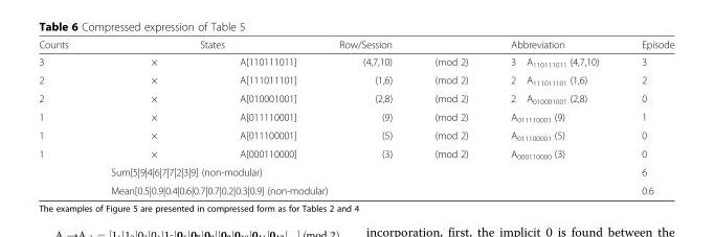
<table><thead><tr><td>Counts</td><td></td><td>States</td><td>Row/Session</td><td></td><td>Abbreviation</td><td>Episode</td></tr></thead><tbody><tr><td>3</td><td>×</td><td>A[110111011]</td><td>(4,7,10)</td><td>(mod 2)</td><td>3 A110111011 (4,7,10)</td><td>3</td></tr><tr><td>2</td><td>×</td><td>A[111011101]</td><td>(1,6)</td><td>(mod 2)</td><td>2 A111011101 (1,6)</td><td>2</td></tr><tr><td>2</td><td>×</td><td>A[010001001]</td><td>(2,8)</td><td>(mod 2)</td><td>2 A010001001 (2,8)</td><td>0</td></tr><tr><td>1</td><td>×</td><td>A[011110001]</td><td>(9)</td><td>(mod 2)</td><td>A<sub>011110001</sub> (9)</td><td>1</td></tr><tr><td>1</td><td>×</td><td>A[011100001]</td><td>(5)</td><td>(mod 2)</td><td>A<sub>011100001</sub> (5)</td><td>0</td></tr><tr><td rowspan="3">1</td><td>×</td><td>A[000110000]</td><td>(3)</td><td>(mod 2)</td><td>A<sub>000110000</sub> (3)</td><td>0</td></tr><tr><td colspan="2">Sum[5|9|4|6|7|7|2|3|9] (non-modular)</td><td colspan="2"></td><td></td><td>6</td></tr><tr><td colspan="4">Mean[0.5|0.9|0.4|0.6|0.7|0.7|0.2|0.3|0.9] (non-modular)</td><td></td><td>0.6</td></tr></tbody></table>